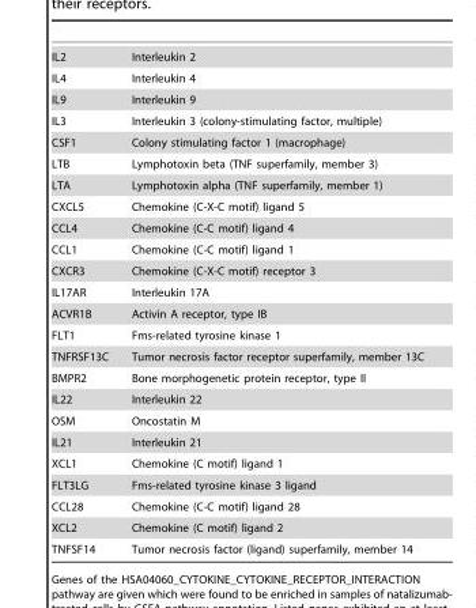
<table><tbody><tr><td>IL2</td><td>Interleukin 2</td></tr><tr><td>IL4</td><td>Interleukin 4</td></tr><tr><td>IL9</td><td>Interleukin 9</td></tr><tr><td>IL3</td><td>Interleukin 3 (colony-stimulating factor, multiple)</td></tr><tr><td>CSF1</td><td>Colony stimulating factor 1 (macrophage)</td></tr><tr><td>LTB</td><td>Lymphotoxin beta (TNF superfamily, member 3)</td></tr><tr><td>LTA</td><td>Lymphotoxin alpha (TNF superfamily, member 1)</td></tr><tr><td>CXCL5</td><td>Chemokine (C-X-C motif) ligand 5</td></tr><tr><td>CCL4</td><td>Chemokine (C-C motif) ligand 4</td></tr><tr><td>CCL1</td><td>Chemokine (C-C motif) ligand 1</td></tr><tr><td>CXCR3</td><td>Chemokine (C-X-C motif) receptor 3</td></tr><tr><td>IL17AR</td><td>Interleukin 17A</td></tr><tr><td>ACVR1B</td><td>Activin A receptor, type IB</td></tr><tr><td>FLT1</td><td>Fms-related tyrosine kinase 1</td></tr><tr><td>TNFRSF13C</td><td>Tumor necrosis factor receptor superfamily, member 13C</td></tr><tr><td>BMPR2</td><td>Bone morphogenetic protein receptor, type II</td></tr><tr><td>IL22</td><td>Interleukin 22</td></tr><tr><td>OSM</td><td>Oncostatin M</td></tr><tr><td>IL21</td><td>Interleukin 21</td></tr><tr><td>XCL1</td><td>Chemokine (C motif) ligand 1</td></tr><tr><td>FLT3LG</td><td>Fms-related tyrosine kinase 3 ligand</td></tr><tr><td>CCL28</td><td>Chemokine (C-C motif) ligand 28</td></tr><tr><td>XCL2</td><td>Chemokine (C motif) ligand 2</td></tr><tr><td>TNFSF14</td><td>Tumor necrosis factor (ligand) superfamily, member 14</td></tr></tbody></table>